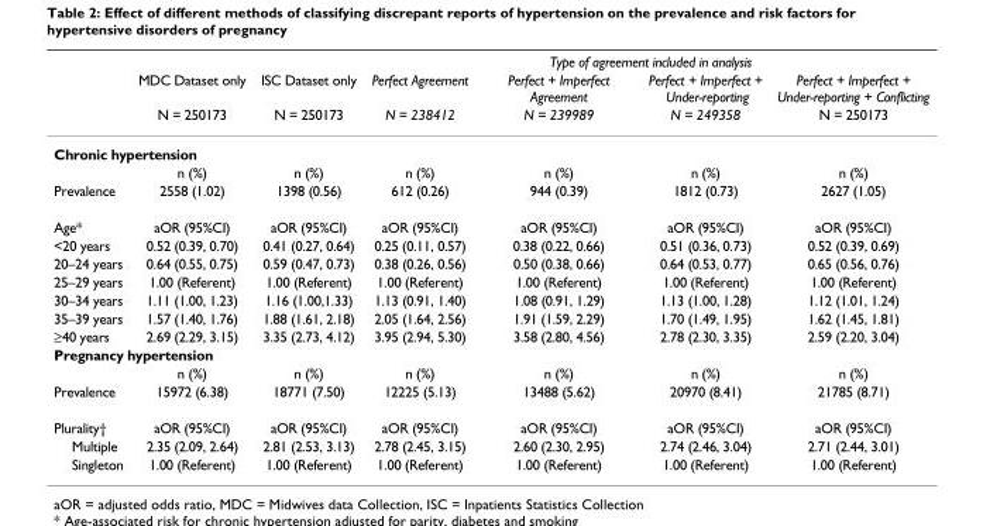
<table><thead><tr><td rowspan="3"></td><td rowspan="3">MDC Dataset only N = 250173</td><td rowspan="3">ISC Dataset only N = 250173</td><td colspan="4">Type of agreement included in analysis</td></tr><tr><td rowspan="2">Perfect Agreement N = 238412</td><td rowspan="2">Perfect + Imperfect Agreement N = 239989</td><td rowspan="2">Perfect + Imperfect + Under-reporting N = 249358</td><td rowspan="2">Perfect + Imperfect + Under-reporting + Conflicting N = 250173</td></tr><tr></tr></thead><tbody><tr><td colspan="7">Chronic hypertension</td></tr><tr><td></td><td>n (%)</td><td>n (%)</td><td>n (%)</td><td>n (%)</td><td>n (%)</td><td>n (%)</td></tr><tr><td>Prevalence</td><td>2558 (1.02)</td><td>1398 (0.56)</td><td>612 (0.26)</td><td>944 (0.39)</td><td>1812 (0.73)</td><td>2627 (1.05)</td></tr><tr><td>Age*</td><td>aOR (95%CI)</td><td>aOR (95%CI)</td><td>aOR (95%CI)</td><td>aOR (95%CI)</td><td>aOR (95%CI)</td><td>aOR (95%CI)</td></tr><tr><td>&lt;20 years</td><td>0.52 (0.39, 0.70)</td><td>0.41 (0.27, 0.64)</td><td>0.25 (0.11, 0.57)</td><td>0.38 (0.22, 0.66)</td><td>0.51 (0.36, 0.73)</td><td>0.52 (0.39, 0.69)</td></tr><tr><td>20–24 years</td><td>0.64 (0.55, 0.75)</td><td>0.59 (0.47, 0.73)</td><td>0.38 (0.26, 0.56)</td><td>0.50 (0.38, 0.66)</td><td>0.64 (0.53, 0.77)</td><td>0.65 (0.56, 0.76)</td></tr><tr><td>25–29 years</td><td>1.00 (Referent)</td><td>1.00 (Referent)</td><td>1.00 (Referent)</td><td>1.00 (Referent)</td><td>1.00 (Referent)</td><td>1.00 (Referent)</td></tr><tr><td>30–34 years</td><td>1.11 (1.00, 1.23)</td><td>1.16 (1.00,1.33)</td><td>1.13 (0.91, 1.40)</td><td>1.08 (0.91, 1.29)</td><td>1.13 (1.00, 1.28)</td><td>1.12 (1.01, 1.24)</td></tr><tr><td>35–39 years</td><td>1.57 (1.40, 1.76)</td><td>1.88 (1.61, 2.18)</td><td>2.05 (1.64, 2.56)</td><td>1.91 (1.59, 2.29)</td><td>1.70 (1.49, 1.95)</td><td>1.62 (1.45, 1.81)</td></tr><tr><td>≥40 years</td><td>2.69 (2.29, 3.15)</td><td>3.35 (2.73, 4.12)</td><td>3.95 (2.94, 5.30)</td><td>3.58 (2.80, 4.56)</td><td>2.78 (2.30, 3.35)</td><td>2.59 (2.20, 3.04)</td></tr><tr><td colspan="7">Pregnancy hypertension</td></tr><tr><td></td><td>n (%)</td><td>n (%)</td><td>n (%)</td><td>n (%)</td><td>n (%)</td><td>n (%)</td></tr><tr><td>Prevalence</td><td>15972 (6.38)</td><td>18771 (7.50)</td><td>12225 (5.13)</td><td>13488 (5.62)</td><td>20970 (8.41)</td><td>21785 (8.71)</td></tr><tr><td>Plurality†</td><td>aOR (95%CI)</td><td>aOR (95%CI)</td><td>aOR (95%CI)</td><td>aOR (95%CI)</td><td>aOR (95%CI)</td><td>aOR (95%CI)</td></tr><tr><td>Multiple</td><td>2.35 (2.09, 2.64)</td><td>2.81 (2.53, 3.13)</td><td>2.78 (2.45, 3.15)</td><td>2.60 (2.30, 2.95)</td><td>2.74 (2.46, 3.04)</td><td>2.71 (2.44, 3.01)</td></tr><tr><td>Singleton</td><td>1.00 (Referent)</td><td>1.00 (Referent)</td><td>1.00 (Referent)</td><td>1.00 (Referent)</td><td>1.00 (Referent)</td><td>1.00 (Referent)</td></tr></tbody></table>